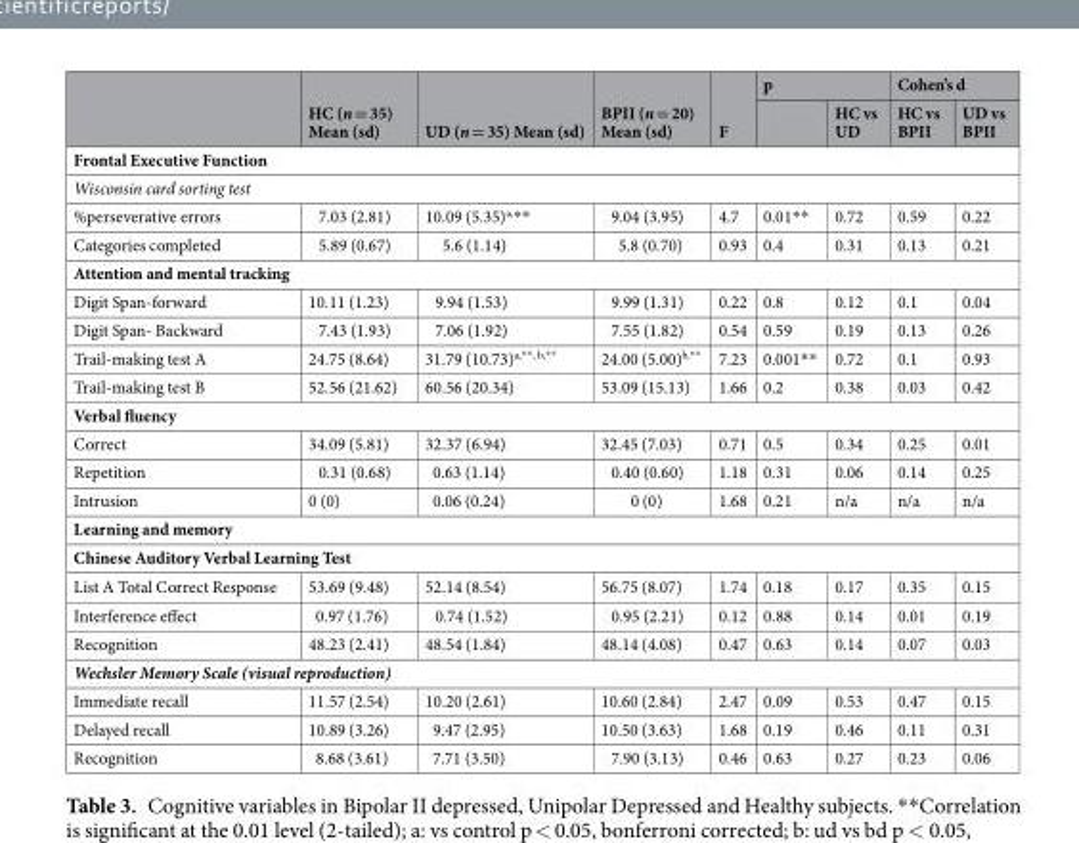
<table><thead><tr><td rowspan="2"></td><td rowspan="2">HC (n = 35) Mean (sd)</td><td rowspan="2">UD (n = 35) Mean (sd)</td><td rowspan="2">BPII (n = 20) Mean (sd)</td><td rowspan="2">F</td><td colspan="2">p</td><td colspan="2">Cohen’s d</td></tr><tr><td></td><td>HC vs UD</td><td>HC vs BPII</td><td>UD vs BPII</td></tr></thead><tbody><tr><td colspan="9">Frontal Executive Function</td></tr><tr><td colspan="9">Wisconsin card sorting test</td></tr><tr><td>%perseverative errors</td><td>7.03 (2.81)</td><td>10.09 (5.35)<sup>a,</sup>**</td><td>9.04 (3.95)</td><td>4.7</td><td>0.01**</td><td>0.72</td><td>0.59</td><td>0.22</td></tr><tr><td>Categories completed</td><td>5.89 (0.67)</td><td>5.6 (1.14)</td><td>5.8 (0.70)</td><td>0.93</td><td>0.4</td><td>0.31</td><td>0.13</td><td>0.21</td></tr><tr><td colspan="9">Attention and mental tracking</td></tr><tr><td>Digit Span-forward</td><td>10.11 (1.23)</td><td>9.94 (1.53)</td><td>9.99 (1.31)</td><td>0.22</td><td>0.8</td><td>0.12</td><td>0.1</td><td>0.04</td></tr><tr><td>Digit Span- Backward</td><td>7.43 (1.93)</td><td>7.06 (1.92)</td><td>7.55 (1.82)</td><td>0.54</td><td>0.59</td><td>0.19</td><td>0.13</td><td>0.26</td></tr><tr><td>Trail-making test A</td><td>24.75 (8.64)</td><td>31.79 (10.73)<sup>a,**, b,**</sup></td><td>24.00 (5.00)<sup>b,**</sup></td><td>7.23</td><td>0.001**</td><td>0.72</td><td>0.1</td><td>0.93</td></tr><tr><td>Trail-making test B</td><td>52.56 (21.62)</td><td>60.56 (20.34)</td><td>53.09 (15.13)</td><td>1.66</td><td>0.2</td><td>0.38</td><td>0.03</td><td>0.42</td></tr><tr><td colspan="9">Verbal fluency</td></tr><tr><td>Correct</td><td>34.09 (5.81)</td><td>32.37 (6.94)</td><td>32.45 (7.03)</td><td>0.71</td><td>0.5</td><td>0.34</td><td>0.25</td><td>0.01</td></tr><tr><td>Repetition</td><td>0.31 (0.68)</td><td>0.63 (1.14)</td><td>0.40 (0.60)</td><td>1.18</td><td>0.31</td><td>0.06</td><td>0.14</td><td>0.25</td></tr><tr><td>Intrusion</td><td>0 (0)</td><td>0.06 (0.24)</td><td>0 (0)</td><td>1.68</td><td>0.21</td><td>n/a</td><td>n/a</td><td>n/a</td></tr><tr><td colspan="9">Learning and memory</td></tr><tr><td colspan="9">Chinese Auditory Verbal Learning Test</td></tr><tr><td>List A Total Correct Response</td><td>53.69 (9.48)</td><td>52.14 (8.54)</td><td>56.75 (8.07)</td><td>1.74</td><td>0.18</td><td>0.17</td><td>0.35</td><td>0.15</td></tr><tr><td>Interference effect</td><td>0.97 (1.76)</td><td>0.74 (1.52)</td><td>0.95 (2.21)</td><td>0.12</td><td>0.88</td><td>0.14</td><td>0.01</td><td>0.19</td></tr><tr><td>Recognition</td><td>48.23 (2.41)</td><td>48.54 (1.84)</td><td>48.14 (4.08)</td><td>0.47</td><td>0.63</td><td>0.14</td><td>0.07</td><td>0.03</td></tr><tr><td colspan="9">Wechsler Memory Scale (visual reproduction)</td></tr><tr><td>Immediate recall</td><td>11.57 (2.54)</td><td>10.20 (2.61)</td><td>10.60 (2.84)</td><td>2.47</td><td>0.09</td><td>0.53</td><td>0.47</td><td>0.15</td></tr><tr><td>Delayed recall</td><td>10.89 (3.26)</td><td>9.47 (2.95)</td><td>10.50 (3.63)</td><td>1.68</td><td>0.19</td><td>0.46</td><td>0.11</td><td>0.31</td></tr><tr><td>Recognition</td><td>8.68 (3.61)</td><td>7.71 (3.50)</td><td>7.90 (3.13)</td><td>0.46</td><td>0.63</td><td>0.27</td><td>0.23</td><td>0.06</td></tr></tbody></table>